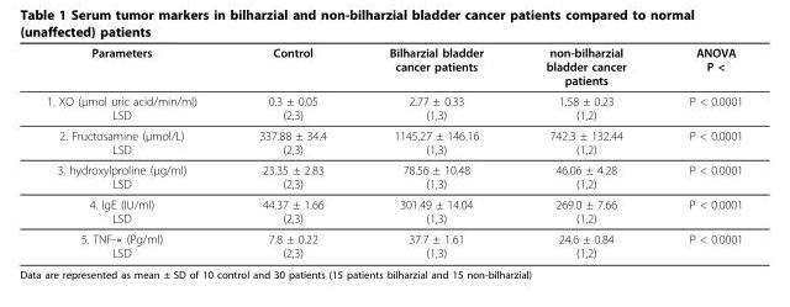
<table><thead><tr><td>Parameters</td><td>Control</td><td>Bilharzial bladder cancer patients</td><td>non-bilharzial bladder cancer patients</td><td>ANOVA P &lt;</td></tr></thead><tbody><tr><td>1. XO (μmol uric acid/min/ml) LSD</td><td>0.3 ± 0.05 (2,3)</td><td>2.77 ± 0.33 (1,3)</td><td>1.58 ± 0.23 (1,2)</td><td>P &lt; 0.0001</td></tr><tr><td>2. Fructosamine (μmol/L) LSD</td><td>337.88 ± 34.4 (2,3)</td><td>1145.27 ± 146.16 (1,3)</td><td>742.3 ± 132.44 (1,2)</td><td>P &lt; 0.0001</td></tr><tr><td>3. hydroxylproline (μg/ml) LSD</td><td>23.35 ± 2.83 (2,3)</td><td>78.56 ± 10.48 (1,3)</td><td>46.06 ± 4.28 (1,2)</td><td>P &lt; 0.0001</td></tr><tr><td>4. IgE (IU/ml) LSD</td><td>44.37 ± 1.66 (2,3)</td><td>301.49 ± 14.04 (1,3)</td><td>269.0 ± 7.66 (1,2)</td><td>P &lt; 0.0001</td></tr><tr><td>5. TNF-∝ (Pg/ml) LSD</td><td>7.8 ± 0.22 (2,3)</td><td>37.7 ± 1.61 (1,3)</td><td>24.6 ± 0.84 (1,2)</td><td>P &lt; 0.0001</td></tr></tbody></table>